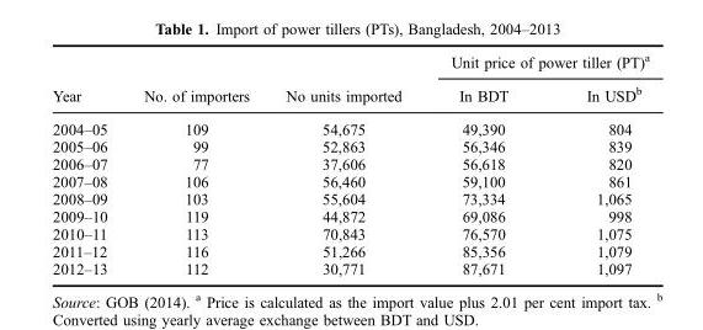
<table><thead><tr><td rowspan="2">Year</td><td rowspan="2">No. of importers</td><td rowspan="2">No units imported</td><td colspan="2">Unit price of power tiller (PT)<sup>a</sup></td></tr><tr><td>In BDT</td><td>In USD<sup>b</sup></td></tr></thead><tbody><tr><td>2004–05</td><td>109</td><td>54,675</td><td>49,390</td><td>804</td></tr><tr><td>2005–06</td><td>99</td><td>52,863</td><td>56,346</td><td>839</td></tr><tr><td>2006–07</td><td>77</td><td>37,606</td><td>56,618</td><td>820</td></tr><tr><td>2007–08</td><td>106</td><td>56,460</td><td>59,100</td><td>861</td></tr><tr><td>2008–09</td><td>103</td><td>55,604</td><td>73,334</td><td>1,065</td></tr><tr><td>2009–10</td><td>119</td><td>44,872</td><td>69,086</td><td>998</td></tr><tr><td>2010–11</td><td>113</td><td>70,843</td><td>76,570</td><td>1,075</td></tr><tr><td>2011–12</td><td>116</td><td>51,266</td><td>85,356</td><td>1,079</td></tr><tr><td>2012–13</td><td>112</td><td>30,771</td><td>87,671</td><td>1,097</td></tr></tbody></table>